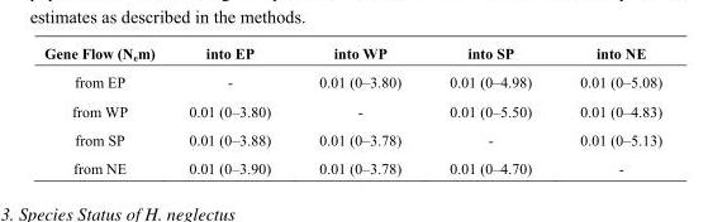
<table><thead><tr><td>Gene Flow (N<sub>e</sub>m)</td><td>into EP</td><td>into WP</td><td>into SP</td><td>into NE</td></tr></thead><tbody><tr><td>from EP</td><td>-</td><td>0.01 (0–3.80)</td><td>0.01 (0–4.98)</td><td>0.01 (0–5.08)</td></tr><tr><td>from WP</td><td>0.01 (0–3.80)</td><td>-</td><td>0.01 (0–5.50)</td><td>0.01 (0–4.83)</td></tr><tr><td>from SP</td><td>0.01 (0–3.88)</td><td>0.01 (0–3.78)</td><td>-</td><td>0.01 (0–5.13)</td></tr><tr><td>from NE</td><td>0.01 (0–3.90)</td><td>0.01 (0–3.78)</td><td>0.01 (0–4.70)</td><td>-</td></tr></tbody></table>